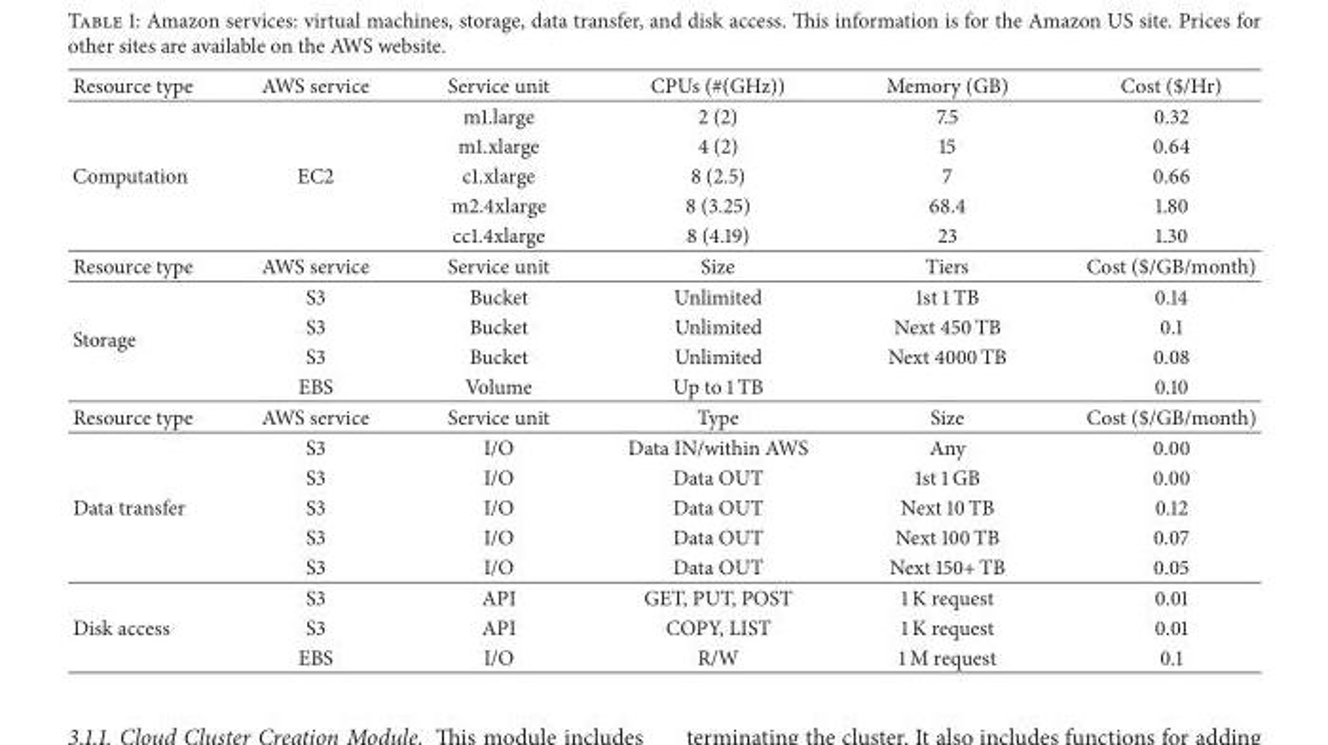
<table><thead><tr><td>Resource type</td><td>AWS service</td><td>Service unit</td><td>CPUs (#(GHz))</td><td>Memory (GB)</td><td>Cost ($/Hr)</td></tr></thead><tbody><tr><td></td><td></td><td>m1.large</td><td>2 (2)</td><td>7.5</td><td>0.32</td></tr><tr><td></td><td></td><td>m1.xlarge</td><td>4 (2)</td><td>15</td><td>0.64</td></tr><tr><td rowspan="3">Computation</td><td>EC2</td><td>c1.xlarge</td><td>8 (2.5)</td><td>7</td><td>0.66</td></tr><tr><td></td><td>m2.4xlarge</td><td>8 (3.25)</td><td>68.4</td><td>1.80</td></tr><tr><td></td><td>cc1.4xlarge</td><td>8 (4.19)</td><td>23</td><td>1.30</td></tr><tr><td rowspan="2">Resource type</td><td>AWS service</td><td>Service unit</td><td>Size</td><td>Tiers</td><td>Cost ($/GB/month)</td></tr><tr><td>S3</td><td>Bucket</td><td>Unlimited</td><td>1st 1 TB</td><td>0.14</td></tr><tr><td rowspan="3">Storage</td><td>S3</td><td>Bucket</td><td>Unlimited</td><td>Next 450 TB</td><td>0.1</td></tr><tr><td>S3</td><td>Bucket</td><td>Unlimited</td><td>Next 4000 TB</td><td>0.08</td></tr><tr><td>EBS</td><td>Volume</td><td>Up to 1 TB</td><td></td><td>0.10</td></tr><tr><td rowspan="3">Resource type</td><td>AWS service</td><td>Service unit</td><td>Type</td><td>Size</td><td>Cost ($/GB/month)</td></tr><tr><td>S3</td><td>I/O</td><td>Data IN/within AWS</td><td>Any</td><td>0.00</td></tr><tr><td>S3</td><td>I/O</td><td>Data OUT</td><td>1st 1 GB</td><td>0.00</td></tr><tr><td rowspan="4">Data transfer</td><td>S3</td><td>I/O</td><td>Data OUT</td><td>Next 10 TB</td><td>0.12</td></tr><tr><td>S3</td><td>I/O</td><td>Data OUT</td><td>Next 100 TB</td><td>0.07</td></tr><tr><td>S3</td><td>I/O</td><td>Data OUT</td><td>Next 150+ TB</td><td>0.05</td></tr><tr><td>S3</td><td>API</td><td>GET, PUT, POST</td><td>1 K request</td><td>0.01</td></tr><tr><td rowspan="2">Disk access</td><td>S3</td><td>API</td><td>COPY, LIST</td><td>1 K request</td><td>0.01</td></tr><tr><td>EBS</td><td>I/O</td><td>R/W</td><td>1 M request</td><td>0.1</td></tr></tbody></table>